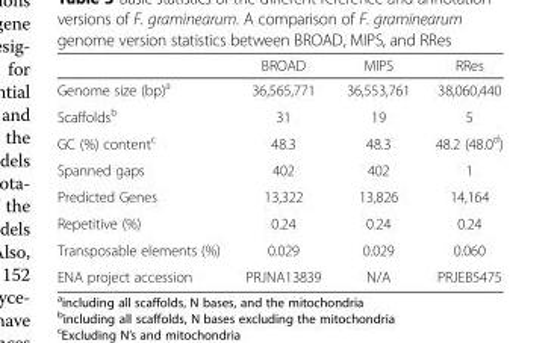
<table><thead><tr><td></td><td>BROAD</td><td>MIPS</td><td>RRes</td></tr></thead><tbody><tr><td>Genome size (bp)<sup>a</sup></td><td>36,565,771</td><td>36,553,761</td><td>38,060,440</td></tr><tr><td>Scaffolds<sup>b</sup></td><td>31</td><td>19</td><td>5</td></tr><tr><td>GC (%) content<sup>c</sup></td><td>48.3</td><td>48.3</td><td>48.2 (48.0<sup>d</sup>)</td></tr><tr><td>Spanned gaps</td><td>402</td><td>402</td><td>1</td></tr><tr><td>Predicted Genes</td><td>13,322</td><td>13,826</td><td>14,164</td></tr><tr><td>Repetitive (%)</td><td>0.24</td><td>0.24</td><td>0.24</td></tr><tr><td>Transposable elements (%)</td><td>0.029</td><td>0.029</td><td>0.060</td></tr><tr><td>ENA project accession</td><td>PRJNA13839</td><td>N/A</td><td>PRJEB5475</td></tr></tbody></table>